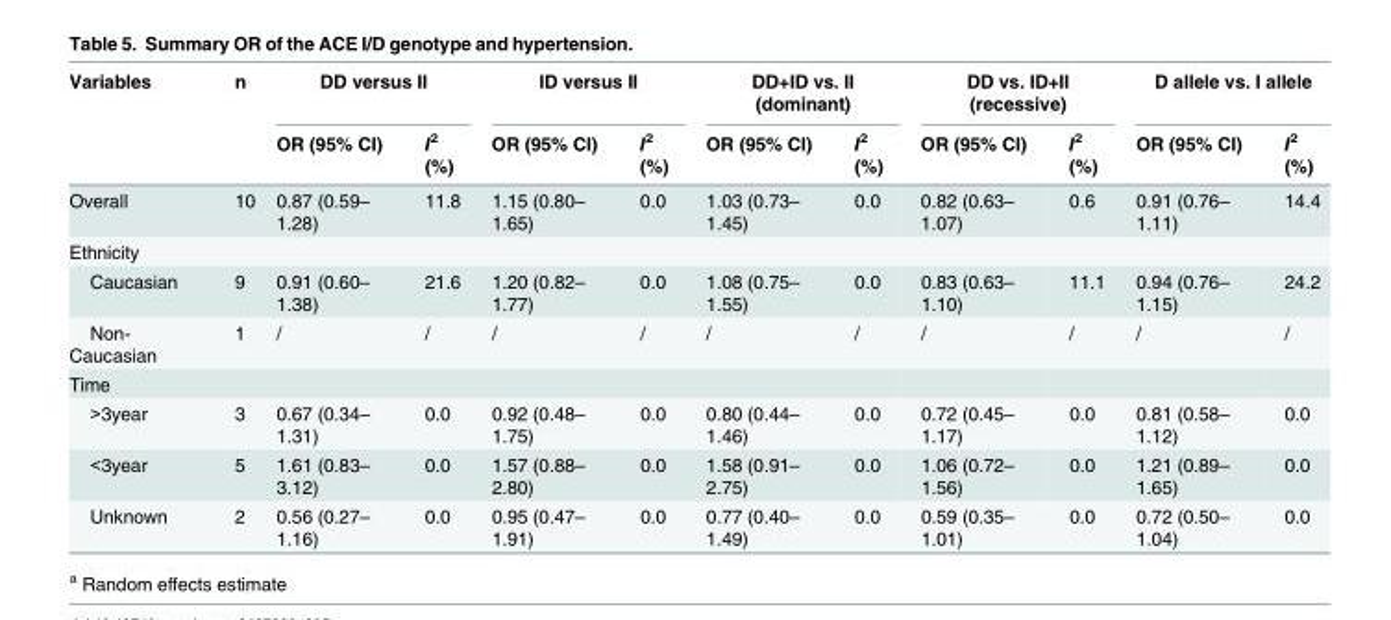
<table><thead><tr><td rowspan="2">Variables</td><td rowspan="2">n</td><td colspan="2">DD versus II</td><td colspan="2">ID versus II</td><td colspan="2">DD+ID vs. II (dominant)</td><td colspan="2">DD vs. ID+II (recessive)</td><td colspan="2">D allele vs. I allele</td></tr><tr><td>OR (95% CI)</td><td>I<sup>2</sup> (%)</td><td>OR (95% CI)</td><td>I<sup>2</sup> (%)</td><td>OR (95% CI)</td><td>I<sup>2</sup> (%)</td><td>OR (95% CI)</td><td>I<sup>2</sup> (%)</td><td>OR (95% CI)</td><td>I<sup>2</sup> (%)</td></tr></thead><tbody><tr><td>Overall</td><td>10</td><td>0.87 (0.59– 1.28)</td><td>11.8</td><td>1.15 (0.80– 1.65)</td><td>0.0</td><td>1.03 (0.73– 1.45)</td><td>0.0</td><td>0.82 (0.63– 1.07)</td><td>0.6</td><td>0.91 (0.76– 1.11)</td><td>14.4</td></tr><tr><td colspan="12">Ethnicity</td></tr><tr><td>Caucasian</td><td>9</td><td>0.91 (0.60– 1.38)</td><td>21.6</td><td>1.20 (0.82– 1.77)</td><td>0.0</td><td>1.08 (0.75– 1.55)</td><td>0.0</td><td>0.83 (0.63– 1.10)</td><td>11.1</td><td>0.94 (0.76– 1.15)</td><td>24.2</td></tr><tr><td>Non- Caucasian</td><td>1</td><td>/</td><td>/</td><td>/</td><td>/</td><td>/</td><td>/</td><td>/</td><td>/</td><td>/</td><td>/</td></tr><tr><td colspan="12">Time</td></tr><tr><td>&gt;3year</td><td>3</td><td>0.67 (0.34– 1.31)</td><td>0.0</td><td>0.92 (0.48– 1.75)</td><td>0.0</td><td>0.80 (0.44– 1.46)</td><td>0.0</td><td>0.72 (0.45– 1.17)</td><td>0.0</td><td>0.81 (0.58– 1.12)</td><td>0.0</td></tr><tr><td>&lt;3year</td><td>5</td><td>1.61 (0.83– 3.12)</td><td>0.0</td><td>1.57 (0.88– 2.80)</td><td>0.0</td><td>1.58 (0.91– 2.75)</td><td>0.0</td><td>1.06 (0.72– 1.56)</td><td>0.0</td><td>1.21 (0.89– 1.65)</td><td>0.0</td></tr><tr><td>Unknown</td><td>2</td><td>0.56 (0.27– 1.16)</td><td>0.0</td><td>0.95 (0.47– 1.91)</td><td>0.0</td><td>0.77 (0.40– 1.49)</td><td>0.0</td><td>0.59 (0.35– 1.01)</td><td>0.0</td><td>0.72 (0.50– 1.04)</td><td>0.0</td></tr></tbody></table>